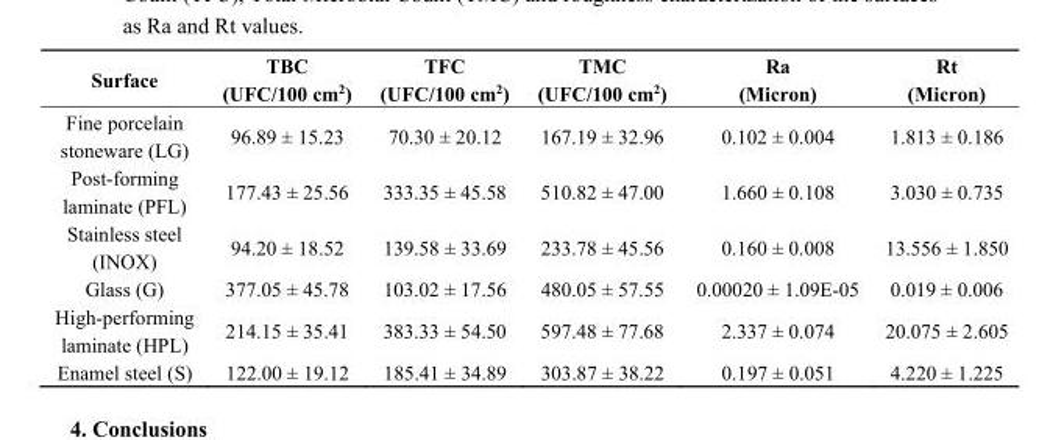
<table><thead><tr><td>Surface</td><td>TBC (UFC/100 cm<sup>2</sup>)</td><td>TFC (UFC/100 cm<sup>2</sup>)</td><td>TMC (UFC/100 cm<sup>2</sup>)</td><td>Ra (Micron)</td><td>Rt (Micron)</td></tr></thead><tbody><tr><td>Fine porcelain stoneware (LG)</td><td>96.89 ± 15.23</td><td>70.30 ± 20.12</td><td>167.19 ± 32.96</td><td>0.102 ± 0.004</td><td>1.813 ± 0.186</td></tr><tr><td>Post-forming laminate (PFL)</td><td>177.43 ± 25.56</td><td>333.35 ± 45.58</td><td>510.82 ± 47.00</td><td>1.660 ± 0.108</td><td>3.030 ± 0.735</td></tr><tr><td>Stainless steel (INOX)</td><td>94.20 ± 18.52</td><td>139.58 ± 33.69</td><td>233.78 ± 45.56</td><td>0.160 ± 0.008</td><td>13.556 ± 1.850</td></tr><tr><td>Glass (G)</td><td>377.05 ± 45.78</td><td>103.02 ± 17.56</td><td>480.05 ± 57.55</td><td>0.00020 ± 1.09E-05</td><td>0.019 ± 0.006</td></tr><tr><td>High-performing laminate (HPL)</td><td>214.15 ± 35.41</td><td>383.33 ± 54.50</td><td>597.48 ± 77.68</td><td>2.337 ± 0.074</td><td>20.075 ± 2.605</td></tr><tr><td>Enamel steel (S)</td><td>122.00 ± 19.12</td><td>185.41 ± 34.89</td><td>303.87 ± 38.22</td><td>0.197 ± 0.051</td><td>4.220 ± 1.225</td></tr></tbody></table>